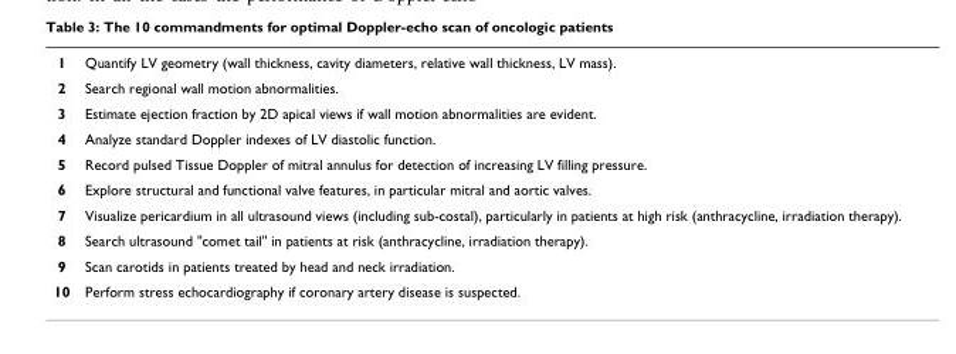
<table><tbody><tr><td>1</td><td>Quantify LV geometry (wall thickness, cavity diameters, relative wall thickness, LV mass).</td></tr><tr><td>2</td><td>Search regional wall motion abnormalities.</td></tr><tr><td>3</td><td>Estimate ejection fraction by 2D apical views if wall motion abnormalities are evident.</td></tr><tr><td>4</td><td>Analyze standard Doppler indexes of LV diastolic function.</td></tr><tr><td>5</td><td>Record pulsed Tissue Doppler of mitral annulus for detection of increasing LV filling pressure.</td></tr><tr><td>6</td><td>Explore structural and functional valve features, in particular mitral and aortic valves.</td></tr><tr><td>7</td><td>Visualize pericardium in all ultrasound views (including sub-costal), particularly in patients at high risk (anthracycline, irradiation therapy).</td></tr><tr><td>8</td><td>Search ultrasound &quot;comet tail&quot; in patients at risk (anthracycline, irradiation therapy).</td></tr><tr><td>9</td><td>Scan carotids in patients treated by head and neck irradiation.</td></tr><tr><td>10</td><td>Perform stress echocardiography if coronary artery disease is suspected.</td></tr></tbody></table>